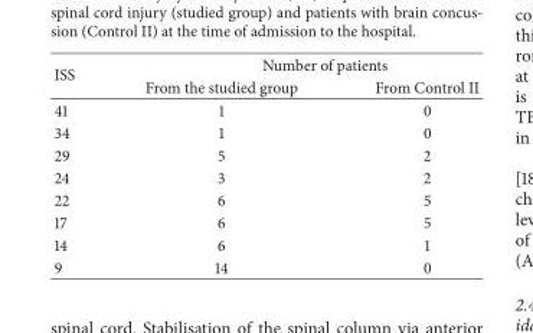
<table><thead><tr><td rowspan="2">ISS</td><td colspan="2">Number of patients</td></tr><tr><td>From the studied group</td><td>From Control II</td></tr></thead><tbody><tr><td>41</td><td>1</td><td>0</td></tr><tr><td>34</td><td>1</td><td>0</td></tr><tr><td>29</td><td>5</td><td>2</td></tr><tr><td>24</td><td>3</td><td>2</td></tr><tr><td>22</td><td>6</td><td>5</td></tr><tr><td>17</td><td>6</td><td>5</td></tr><tr><td>14</td><td>6</td><td>1</td></tr><tr><td>9</td><td>14</td><td>0</td></tr></tbody></table>